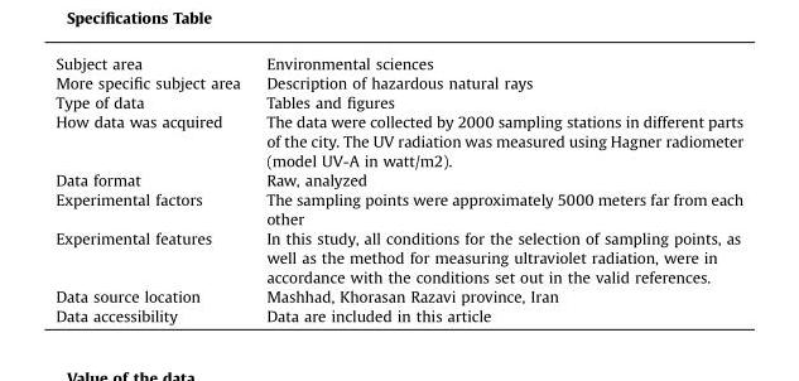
<table><tbody><tr><td>Subject area</td><td>Environmental sciences</td></tr><tr><td>More specific subject area</td><td>Description of hazardous natural rays</td></tr><tr><td>Type of data</td><td>Tables and figures</td></tr><tr><td>How data was acquired</td><td>The data were collected by 2000 sampling stations in different parts of the city. The UV radiation was measured using Hagner radiometer (model UV-A in watt/m2).</td></tr><tr><td>Data format</td><td>Raw, analyzed</td></tr><tr><td>Experimental factors</td><td>The sampling points were approximately 5000 meters far from each other</td></tr><tr><td>Experimental features</td><td>In this study, all conditions for the selection of sampling points, as well as the method for measuring ultraviolet radiation, were in accordance with the conditions set out in the valid references.</td></tr><tr><td>Data source location</td><td>Mashhad, Khorasan Razavi province, Iran</td></tr><tr><td>Data accessibility</td><td>Data are included in this article</td></tr></tbody></table>